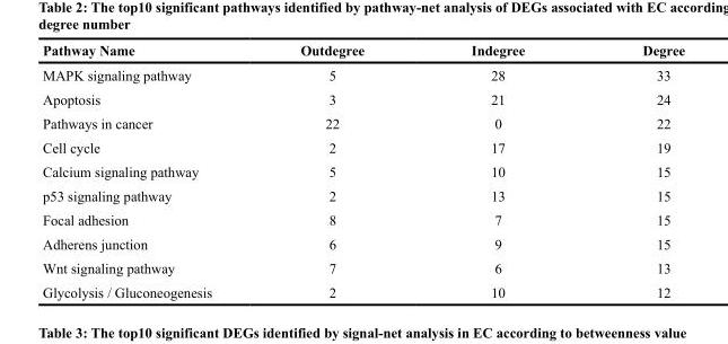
<table><thead><tr><td>Pathway Name</td><td>Outdegree</td><td>Indegree</td><td>Degree</td></tr></thead><tbody><tr><td>MAPK signaling pathway</td><td>5</td><td>28</td><td>33</td></tr><tr><td>Apoptosis</td><td>3</td><td>21</td><td>24</td></tr><tr><td>Pathways in cancer</td><td>22</td><td>0</td><td>22</td></tr><tr><td>Cell cycle</td><td>2</td><td>17</td><td>19</td></tr><tr><td>Calcium signaling pathway</td><td>5</td><td>10</td><td>15</td></tr><tr><td>p53 signaling pathway</td><td>2</td><td>13</td><td>15</td></tr><tr><td>Focal adhesion</td><td>8</td><td>7</td><td>15</td></tr><tr><td>Adherens junction</td><td>6</td><td>9</td><td>15</td></tr><tr><td>Wnt signaling pathway</td><td>7</td><td>6</td><td>13</td></tr><tr><td>Glycolysis / Gluconeogenesis</td><td>2</td><td>10</td><td>12</td></tr></tbody></table>